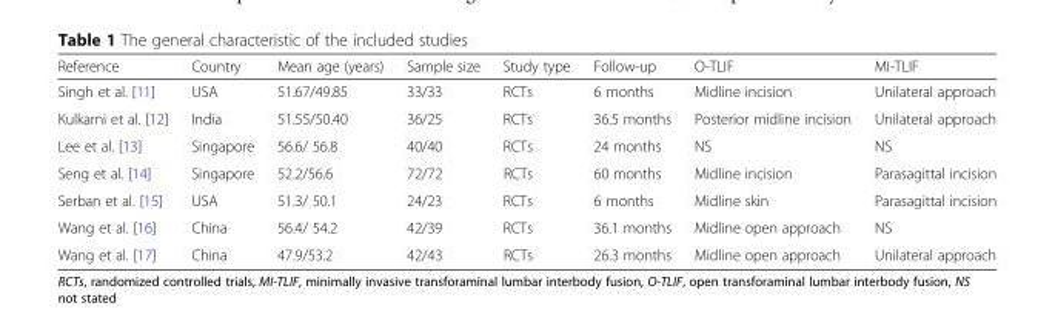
<table><thead><tr><td>Reference</td><td>Country</td><td>Mean age (years)</td><td>Sample size</td><td>Study type</td><td>Follow-up</td><td>O-TLIF</td><td>MI-TLIF</td></tr></thead><tbody><tr><td>Singh et al. [11]</td><td>USA</td><td>51.67/49.85</td><td>33/33</td><td>RCTs</td><td>6 months</td><td>Midline incision</td><td>Unilateral approach</td></tr><tr><td>Kulkarni et al. [12]</td><td>India</td><td>51.55/50.40</td><td>36/25</td><td>RCTs</td><td>36.5 months</td><td>Posterior midline incision</td><td>Unilateral approach</td></tr><tr><td>Lee et al. [13]</td><td>Singapore</td><td>56.6/ 56.8</td><td>40/40</td><td>RCTs</td><td>24 months</td><td>NS</td><td>NS</td></tr><tr><td>Seng et al. [14]</td><td>Singapore</td><td>52.2/56.6</td><td>72/72</td><td>RCTs</td><td>60 months</td><td>Midline incision</td><td>Parasagittal incision</td></tr><tr><td>Serban et al. [15]</td><td>USA</td><td>51.3/ 50.1</td><td>24/23</td><td>RCTs</td><td>6 months</td><td>Midline skin</td><td>Parasagittal incision</td></tr><tr><td>Wang et al. [16]</td><td>China</td><td>56.4/ 54.2</td><td>42/39</td><td>RCTs</td><td>36.1 months</td><td>Midline open approach</td><td>NS</td></tr><tr><td>Wang et al. [17]</td><td>China</td><td>47.9/53.2</td><td>42/43</td><td>RCTs</td><td>26.3 months</td><td>Midline open approach</td><td>Unilateral approach</td></tr></tbody></table>